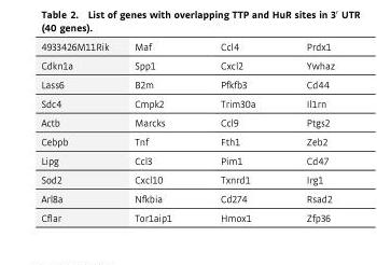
<table><tbody><tr><td>4933426M11Rik</td><td>Maf</td><td>Ccl4</td><td>Prdx1</td></tr><tr><td>Cdkn1a</td><td>Spp1</td><td>Cxcl2</td><td>Ywhaz</td></tr><tr><td>Lass6</td><td>B2m</td><td>Pfkfb3</td><td>Cd44</td></tr><tr><td>Sdc4</td><td>Cmpk2</td><td>Trim30a</td><td>Il1rn</td></tr><tr><td>Actb</td><td>Marcks</td><td>Ccl9</td><td>Ptgs2</td></tr><tr><td>Cebpb</td><td>Tnf</td><td>Fth1</td><td>Zeb2</td></tr><tr><td>Lipg</td><td>Ccl3</td><td>Pim1</td><td>Cd47</td></tr><tr><td>Sod2</td><td>Cxcl10</td><td>Txnrd1</td><td>Irg1</td></tr><tr><td>Arl8a</td><td>Nfkbia</td><td>Cd274</td><td>Rsad2</td></tr><tr><td>Cflar</td><td>Tor1aip1</td><td>Hmox1</td><td>Zfp36</td></tr></tbody></table>